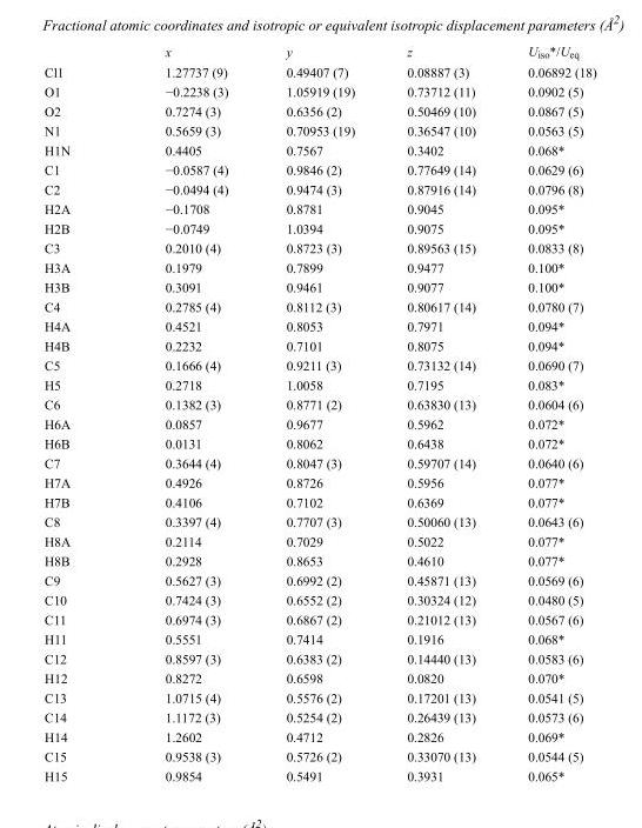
<table><thead><tr><td></td><td>x</td><td>y</td><td>z</td><td>U<sub>iso</sub>*/U<sub>eq</sub></td></tr></thead><tbody><tr><td>Cl1</td><td>1.27737 (9)</td><td>0.49407 (7)</td><td>0.08887 (3)</td><td>0.06892 (18)</td></tr><tr><td>O1</td><td>−0.2238 (3)</td><td>1.05919 (19)</td><td>0.73712 (11)</td><td>0.0902 (5)</td></tr><tr><td>O2</td><td>0.7274 (3)</td><td>0.6356 (2)</td><td>0.50469 (10)</td><td>0.0867 (5)</td></tr><tr><td>N1</td><td>0.5659 (3)</td><td>0.70953 (19)</td><td>0.36547 (10)</td><td>0.0563 (5)</td></tr><tr><td>H1N</td><td>0.4405</td><td>0.7567</td><td>0.3402</td><td>0.068*</td></tr><tr><td>C1</td><td>−0.0587 (4)</td><td>0.9846 (2)</td><td>0.77649 (14)</td><td>0.0629 (6)</td></tr><tr><td>C2</td><td>−0.0494 (4)</td><td>0.9474 (3)</td><td>0.87916 (14)</td><td>0.0796 (8)</td></tr><tr><td>H2A</td><td>−0.1708</td><td>0.8781</td><td>0.9045</td><td>0.095*</td></tr><tr><td>H2B</td><td>−0.0749</td><td>1.0394</td><td>0.9075</td><td>0.095*</td></tr><tr><td>C3</td><td>0.2010 (4)</td><td>0.8723 (3)</td><td>0.89563 (15)</td><td>0.0833 (8)</td></tr><tr><td>H3A</td><td>0.1979</td><td>0.7899</td><td>0.9477</td><td>0.100*</td></tr><tr><td>H3B</td><td>0.3091</td><td>0.9461</td><td>0.9077</td><td>0.100*</td></tr><tr><td>C4</td><td>0.2785 (4)</td><td>0.8112 (3)</td><td>0.80617 (14)</td><td>0.0780 (7)</td></tr><tr><td>H4A</td><td>0.4521</td><td>0.8053</td><td>0.7971</td><td>0.094*</td></tr><tr><td>H4B</td><td>0.2232</td><td>0.7101</td><td>0.8075</td><td>0.094*</td></tr><tr><td>C5</td><td>0.1666 (4)</td><td>0.9211 (3)</td><td>0.73132 (14)</td><td>0.0690 (7)</td></tr><tr><td>H5</td><td>0.2718</td><td>1.0058</td><td>0.7195</td><td>0.083*</td></tr><tr><td>C6</td><td>0.1382 (3)</td><td>0.8771 (2)</td><td>0.63830 (13)</td><td>0.0604 (6)</td></tr><tr><td>H6A</td><td>0.0857</td><td>0.9677</td><td>0.5962</td><td>0.072*</td></tr><tr><td>H6B</td><td>0.0131</td><td>0.8062</td><td>0.6438</td><td>0.072*</td></tr><tr><td>C7</td><td>0.3644 (4)</td><td>0.8047 (3)</td><td>0.59707 (14)</td><td>0.0640 (6)</td></tr><tr><td>H7A</td><td>0.4926</td><td>0.8726</td><td>0.5956</td><td>0.077*</td></tr><tr><td>H7B</td><td>0.4106</td><td>0.7102</td><td>0.6369</td><td>0.077*</td></tr><tr><td>C8</td><td>0.3397 (4)</td><td>0.7707 (3)</td><td>0.50060 (13)</td><td>0.0643 (6)</td></tr><tr><td>H8A</td><td>0.2114</td><td>0.7029</td><td>0.5022</td><td>0.077*</td></tr><tr><td>H8B</td><td>0.2928</td><td>0.8653</td><td>0.4610</td><td>0.077*</td></tr><tr><td>C9</td><td>0.5627 (3)</td><td>0.6992 (2)</td><td>0.45871 (13)</td><td>0.0569 (6)</td></tr><tr><td>C10</td><td>0.7424 (3)</td><td>0.6552 (2)</td><td>0.30324 (12)</td><td>0.0480 (5)</td></tr><tr><td>C11</td><td>0.6974 (3)</td><td>0.6867 (2)</td><td>0.21012 (13)</td><td>0.0567 (6)</td></tr><tr><td>H11</td><td>0.5551</td><td>0.7414</td><td>0.1916</td><td>0.068*</td></tr><tr><td>C12</td><td>0.8597 (3)</td><td>0.6383 (2)</td><td>0.14440 (13)</td><td>0.0583 (6)</td></tr><tr><td>H12</td><td>0.8272</td><td>0.6598</td><td>0.0820</td><td>0.070*</td></tr><tr><td>C13</td><td>1.0715 (4)</td><td>0.5576 (2)</td><td>0.17201 (13)</td><td>0.0541 (5)</td></tr><tr><td>C14</td><td>1.1172 (3)</td><td>0.5254 (2)</td><td>0.26439 (13)</td><td>0.0573 (6)</td></tr><tr><td>H14</td><td>1.2602</td><td>0.4712</td><td>0.2826</td><td>0.069*</td></tr><tr><td>C15</td><td>0.9538 (3)</td><td>0.5726 (2)</td><td>0.33070 (13)</td><td>0.0544 (5)</td></tr><tr><td>H15</td><td>0.9854</td><td>0.5491</td><td>0.3931</td><td>0.065*</td></tr></tbody></table>